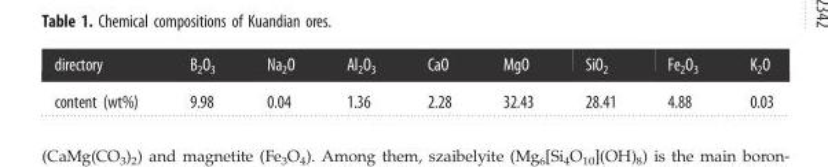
<table><thead><tr><td>directory</td><td>B<sub>2</sub>O<sub>3</sub></td><td>Na<sub>2</sub>O</td><td>Al<sub>2</sub>O<sub>3</sub></td><td>CaO</td><td>MgO</td><td>SiO<sub>2</sub></td><td>Fe<sub>2</sub>O<sub>3</sub></td><td>K<sub>2</sub>O</td></tr></thead><tbody><tr><td>content (wt%)</td><td>9.98</td><td>0.04</td><td>1.36</td><td>2.28</td><td>32.43</td><td>28.41</td><td>4.88</td><td>0.03</td></tr></tbody></table>